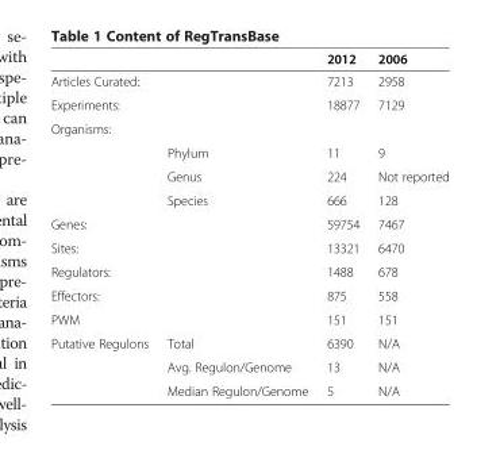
<table><thead><tr><td></td><td></td><td>2012</td><td>2006</td></tr></thead><tbody><tr><td>Articles Curated:</td><td></td><td>7213</td><td>2958</td></tr><tr><td>Experiments:</td><td></td><td>18877</td><td>7129</td></tr><tr><td colspan="4">Organisms:</td></tr><tr><td></td><td>Phylum</td><td>11</td><td>9</td></tr><tr><td></td><td>Genus</td><td>224</td><td>Not reported</td></tr><tr><td></td><td>Species</td><td>666</td><td>128</td></tr><tr><td>Genes:</td><td></td><td>59754</td><td>7467</td></tr><tr><td>Sites:</td><td></td><td>13321</td><td>6470</td></tr><tr><td>Regulators:</td><td></td><td>1488</td><td>678</td></tr><tr><td>Effectors:</td><td></td><td>875</td><td>558</td></tr><tr><td>PWM</td><td></td><td>151</td><td>151</td></tr><tr><td rowspan="3">Putative Regulons</td><td>Total</td><td>6390</td><td>N/A</td></tr><tr><td>Avg. Regulon/Genome</td><td>13</td><td>N/A</td></tr><tr><td>Median Regulon/Genome</td><td>5</td><td>N/A</td></tr></tbody></table>